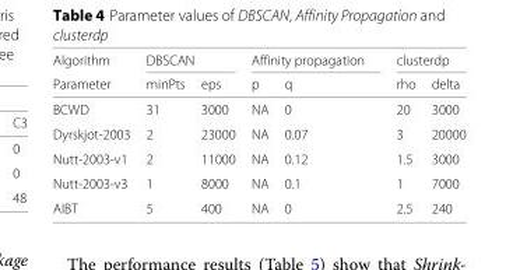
<table><thead><tr><td rowspan="2">Algorithm Parameter</td><td colspan="2">DBSCAN</td><td colspan="2">Affinity propagation</td><td colspan="2">clusterdp</td></tr><tr><td>minPts</td><td>eps</td><td>p</td><td>q</td><td>rho</td><td>delta</td></tr></thead><tbody><tr><td>BCWD</td><td>31</td><td>3000</td><td>NA</td><td>0</td><td>20</td><td>3000</td></tr><tr><td>Dyrskjot-2003</td><td>2</td><td>23000</td><td>NA</td><td>0.07</td><td>3</td><td>20000</td></tr><tr><td>Nutt-2003-v1</td><td>2</td><td>11000</td><td>NA</td><td>0.12</td><td>1.5</td><td>3000</td></tr><tr><td>Nutt-2003-v3</td><td>1</td><td>8000</td><td>NA</td><td>0.1</td><td>1</td><td>7000</td></tr><tr><td>AIBT</td><td>5</td><td>400</td><td>NA</td><td>0</td><td>2.5</td><td>240</td></tr></tbody></table>